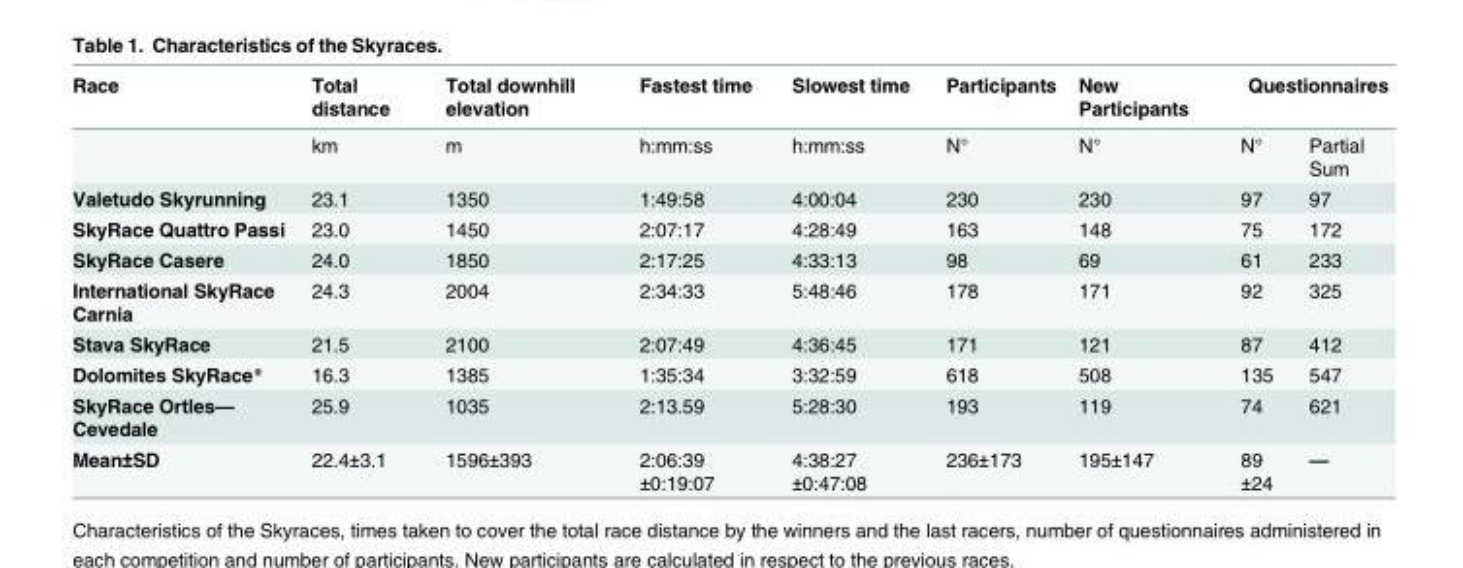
<table><thead><tr><td rowspan="2">Race</td><td rowspan="2">Total distance km</td><td rowspan="2">Total downhill elevation m</td><td rowspan="2">Fastest time h:mm:ss</td><td rowspan="2">Slowest time h:mm:ss</td><td rowspan="2">Participants N°</td><td rowspan="2">New Participants N°</td><td colspan="2">Questionnaires</td></tr><tr><td>N°</td><td>Partial Sum</td></tr></thead><tbody><tr><td>Valetudo Skyrunning</td><td>23.1</td><td>1350</td><td>1:49:58</td><td>4:00:04</td><td>230</td><td>230</td><td>97</td><td>97</td></tr><tr><td>SkyRace Quattro Passi</td><td>23.0</td><td>1450</td><td>2:07:17</td><td>4:28:49</td><td>163</td><td>148</td><td>75</td><td>172</td></tr><tr><td>SkyRace Casere</td><td>24.0</td><td>1850</td><td>2:17:25</td><td>4:33:13</td><td>98</td><td>69</td><td>61</td><td>233</td></tr><tr><td>International SkyRace Carnia</td><td>24.3</td><td>2004</td><td>2:34:33</td><td>5:48:46</td><td>178</td><td>171</td><td>92</td><td>325</td></tr><tr><td>Stava SkyRace</td><td>21.5</td><td>2100</td><td>2:07:49</td><td>4:36:45</td><td>171</td><td>121</td><td>87</td><td>412</td></tr><tr><td>Dolomites SkyRace*</td><td>16.3</td><td>1385</td><td>1:35:34</td><td>3:32:59</td><td>618</td><td>508</td><td>135</td><td>547</td></tr><tr><td>SkyRace Ortles— Cevedale</td><td>25.9</td><td>1035</td><td>2:13.59</td><td>5:28:30</td><td>193</td><td>119</td><td>74</td><td>621</td></tr><tr><td>Mean±SD</td><td>22.4±3.1</td><td>1596±393</td><td>2:06:39 ±0:19:07</td><td>4:38:27 ±0:47:08</td><td>236±173</td><td>195±147</td><td>89 ±24</td><td>—</td></tr></tbody></table>